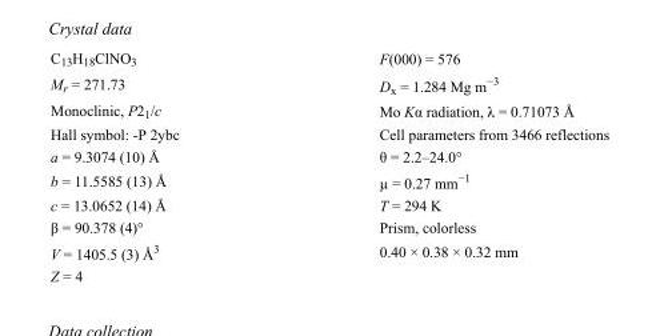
<table><tbody><tr><td>C<sub>13</sub>H<sub>18</sub>ClNO<sub>3</sub></td><td>F(000) = 576</td></tr><tr><td>M<sub>r</sub> = 271.73</td><td>D<sub>x</sub> = 1.284 Mg m<sup>−3</sup></td></tr><tr><td>Monoclinic, P2<sub>1</sub>/c</td><td>Mo Kα radiation, λ = 0.71073 Å</td></tr><tr><td>Hall symbol: -P 2ybc</td><td>Cell parameters from 3466 reflections</td></tr><tr><td>a = 9.3074 (10) Å</td><td>θ = 2.2–24.0°</td></tr><tr><td>b = 11.5585 (13) Å</td><td>µ = 0.27 mm<sup>−1</sup></td></tr><tr><td>c = 13.0652 (14) Å</td><td>T = 294 K</td></tr><tr><td>β = 90.378 (4)°</td><td>Prism, colorless</td></tr><tr><td>V = 1405.5 (3) Å<sup>3</sup></td><td>0.40 × 0.38 × 0.32 mm</td></tr><tr><td>Z = 4</td><td></td></tr></tbody></table>